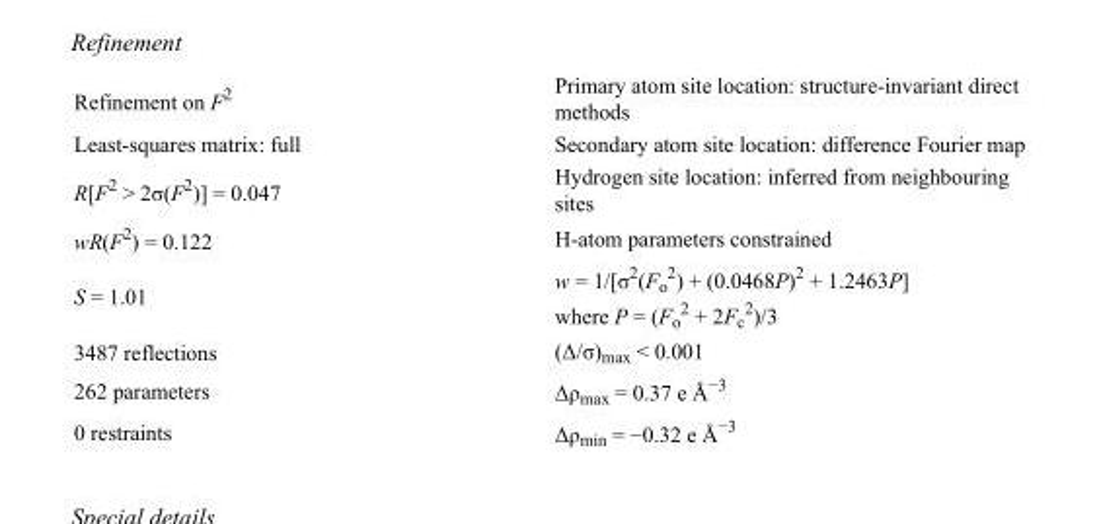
<table><tbody><tr><td>Refinement on F<sup>2</sup></td><td>Primary atom site location: structure-invariant direct methods</td></tr><tr><td>Least-squares matrix: full</td><td>Secondary atom site location: difference Fourier map</td></tr><tr><td>R[F<sup>2</sup> &gt; 2σ(F<sup>2</sup>)] = 0.047</td><td>Hydrogen site location: inferred from neighbouring sites</td></tr><tr><td>wR(F<sup>2</sup>) = 0.122</td><td>H-atom parameters constrained</td></tr><tr><td>S = 1.01</td><td>w = 1/[σ<sup>2</sup>(F<sub>o</sub> <sup>2</sup>) + (0.0468P)<sup>2</sup> + 1.2463P] where P = (F<sub>o</sub> <sup>2</sup> + 2F<sub>c</sub> <sup>2</sup>)/3</td></tr><tr><td>3487 reflections</td><td>(Δ/σ)<sub>max</sub> &lt; 0.001</td></tr><tr><td>262 parameters</td><td>Δρ<sub>max</sub> = 0.37 e Å<sup>−3</sup></td></tr><tr><td>0 restraints</td><td>Δρ<sub>min</sub> = −0.32 e Å<sup>−3</sup></td></tr></tbody></table>